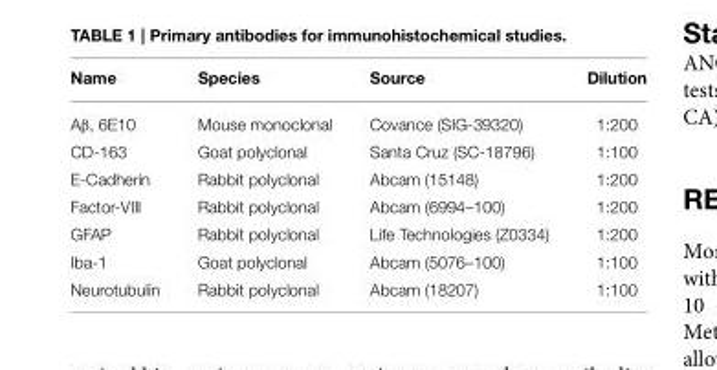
<table><thead><tr><td>Name</td><td>Species</td><td>Source</td><td>Dilution</td></tr></thead><tbody><tr><td>Aβ, 6E10</td><td>Mouse monoclonal</td><td>Covance (SIG-39320)</td><td>1:200</td></tr><tr><td>CD-163</td><td>Goat polyclonal</td><td>Santa Cruz (SC-18796)</td><td>1:100</td></tr><tr><td>E-Cadherin</td><td>Rabbit polyclonal</td><td>Abcam (15148)</td><td>1:200</td></tr><tr><td>Factor-VIII</td><td>Rabbit polyclonal</td><td>Abcam (6994–100)</td><td>1:200</td></tr><tr><td>GFAP</td><td>Rabbit polyclonal</td><td>Life Technologies (Z0334)</td><td>1:200</td></tr><tr><td>Iba-1</td><td>Goat polyclonal</td><td>Abcam (5076–100)</td><td>1:100</td></tr><tr><td>Neurotubulin</td><td>Rabbit polyclonal</td><td>Abcam (18207)</td><td>1:100</td></tr></tbody></table>